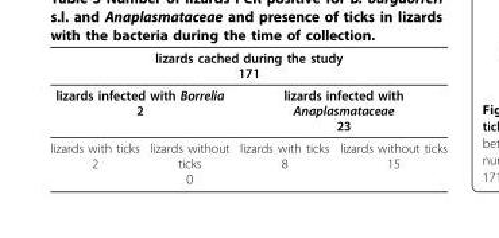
<table><thead><tr><td colspan="4">lizards cached during the study 171</td></tr><tr><td colspan="2">lizards infected with Borrelia 2</td><td colspan="2">lizards infected with Anaplasmataceae 23</td></tr><tr><td>lizards with ticks 2</td><td>lizards without ticks 0</td><td>lizards with ticks 8</td><td>lizards without ticks 15</td></tr></thead><tbody></tbody></table>